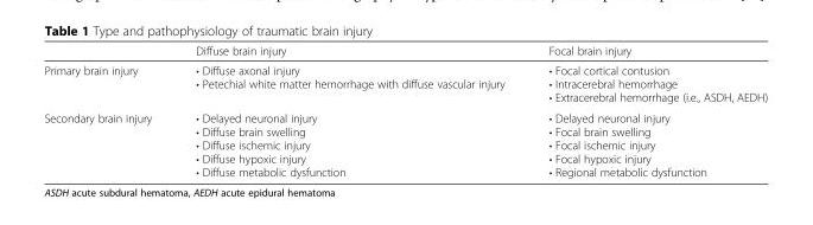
<table><thead><tr><td></td><td>Diffuse brain injury</td><td>Focal brain injury</td></tr></thead><tbody><tr><td>Primary brain injury</td><td>• Diffuse axonal injury • Petechial white matter hemorrhage with diffuse vascular injury</td><td>• Focal cortical contusion • Intracerebral hemorrhage • Extracerebral hemorrhage (i.e., ASDH, AEDH)</td></tr><tr><td>Secondary brain injury</td><td>• Delayed neuronal injury • Diffuse brain swelling • Diffuse ischemic injury • Diffuse hypoxic injury • Diffuse metabolic dysfunction</td><td>• Delayed neuronal injury • Focal brain swelling • Focal ischemic injury • Focal hypoxic injury • Regional metabolic dysfunction</td></tr></tbody></table>